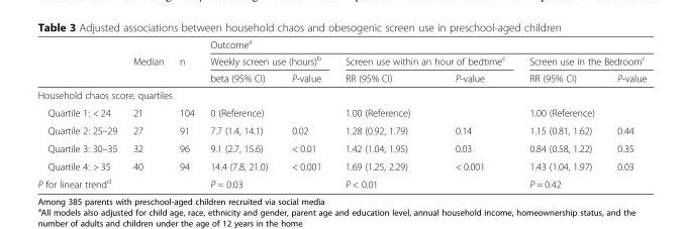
<table><thead><tr><td rowspan="3"></td><td rowspan="3">Median</td><td rowspan="3">n</td><td colspan="6">Outcome<sup>a</sup></td></tr><tr><td colspan="2">Weekly screen use (hours)<sup>b</sup></td><td colspan="2">Screen use within an hour of bedtime<sup>c</sup></td><td colspan="2">Screen use in the Bedroom<sup>c</sup></td></tr><tr><td>beta (95% CI)</td><td>P-value</td><td>RR (95% CI)</td><td>P-value</td><td>RR (95% CI)</td><td>P-value</td></tr></thead><tbody><tr><td colspan="9">Household chaos score, quartiles</td></tr><tr><td>Quartile 1: &lt; 24</td><td>21</td><td>104</td><td>0 (Reference)</td><td></td><td>1.00 (Reference)</td><td></td><td>1.00 (Reference)</td><td></td></tr><tr><td>Quartile 2: 25–29</td><td>27</td><td>91</td><td>7.7 (1.4, 14.1)</td><td>0.02</td><td>1.28 (0.92, 1.79)</td><td>0.14</td><td>1.15 (0.81, 1.62)</td><td>0.44</td></tr><tr><td>Quartile 3: 30–35</td><td>32</td><td>96</td><td>9.1 (2.7, 15.6)</td><td>&lt; 0.01</td><td>1.42 (1.04, 1.95)</td><td>0.03</td><td>0.84 (0.58, 1.22)</td><td>0.35</td></tr><tr><td>Quartile 4: &gt; 35</td><td>40</td><td>94</td><td>14.4 (7.8, 21.0)</td><td>&lt; 0.001</td><td>1.69 (1.25, 2.29)</td><td>&lt; 0.001</td><td>1.43 (1.04, 1.97)</td><td>0.03</td></tr><tr><td colspan="3">P for linear trend<sup>d</sup></td><td colspan="2">P = 0.03</td><td colspan="2">P &lt; 0.01</td><td colspan="2">P = 0.42</td></tr></tbody></table>